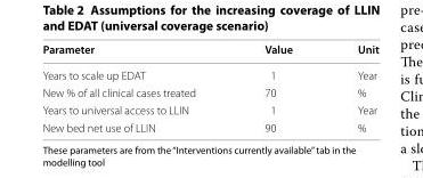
<table><thead><tr><td>Parameter</td><td>Value</td><td>Unit</td></tr></thead><tbody><tr><td>Years to scale up EDAT</td><td>1</td><td>Year</td></tr><tr><td>New % of all clinical cases treated</td><td>70</td><td>%</td></tr><tr><td>Years to universal access to LLIN</td><td>1</td><td>Year</td></tr><tr><td>New bed net use of LLIN</td><td>90</td><td>%</td></tr></tbody></table>